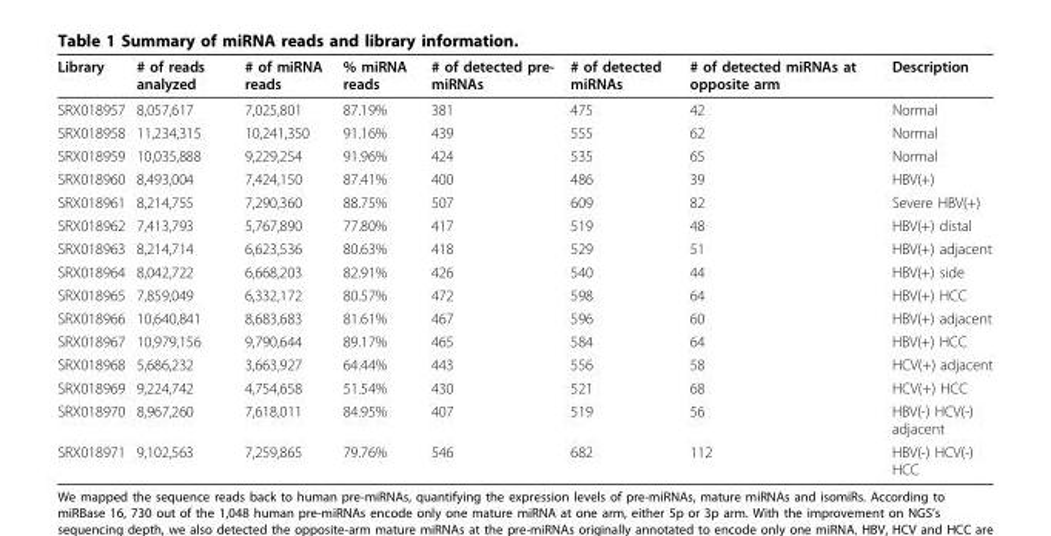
<table><thead><tr><td>Library</td><td># of reads analyzed</td><td># of miRNA reads</td><td>% miRNA reads</td><td># of detected pre- miRNAs</td><td># of detected miRNAs</td><td># of detected miRNAs at opposite arm</td><td>Description</td></tr></thead><tbody><tr><td>SRX018957</td><td>8,057,617</td><td>7,025,801</td><td>87.19%</td><td>381</td><td>475</td><td>42</td><td>Normal</td></tr><tr><td>SRX018958</td><td>11,234,315</td><td>10,241,350</td><td>91.16%</td><td>439</td><td>555</td><td>62</td><td>Normal</td></tr><tr><td>SRX018959</td><td>10,035,888</td><td>9,229,254</td><td>91.96%</td><td>424</td><td>535</td><td>65</td><td>Normal</td></tr><tr><td>SRX018960</td><td>8,493,004</td><td>7,424,150</td><td>87.41%</td><td>400</td><td>486</td><td>39</td><td>HBV(+)</td></tr><tr><td>SRX018961</td><td>8,214,755</td><td>7,290,360</td><td>88.75%</td><td>507</td><td>609</td><td>82</td><td>Severe HBV(+)</td></tr><tr><td>SRX018962</td><td>7,413,793</td><td>5,767,890</td><td>77.80%</td><td>417</td><td>519</td><td>48</td><td>HBV(+) distal</td></tr><tr><td>SRX018963</td><td>8,214,714</td><td>6,623,536</td><td>80.63%</td><td>418</td><td>529</td><td>51</td><td>HBV(+) adjacent</td></tr><tr><td>SRX018964</td><td>8,042,722</td><td>6,668,203</td><td>82.91%</td><td>426</td><td>540</td><td>44</td><td>HBV(+) side</td></tr><tr><td>SRX018965</td><td>7,859,049</td><td>6,332,172</td><td>80.57%</td><td>472</td><td>598</td><td>64</td><td>HBV(+) HCC</td></tr><tr><td>SRX018966</td><td>10,640,841</td><td>8,683,683</td><td>81.61%</td><td>467</td><td>596</td><td>60</td><td>HBV(+) adjacent</td></tr><tr><td>SRX018967</td><td>10,979,156</td><td>9,790,644</td><td>89.17%</td><td>465</td><td>584</td><td>64</td><td>HBV(+) HCC</td></tr><tr><td>SRX018968</td><td>5,686,232</td><td>3,663,927</td><td>64.44%</td><td>443</td><td>556</td><td>58</td><td>HCV(+) adjacent</td></tr><tr><td>SRX018969</td><td>9,224,742</td><td>4,754,658</td><td>51.54%</td><td>430</td><td>521</td><td>68</td><td>HCV(+) HCC</td></tr><tr><td>SRX018970</td><td>8,967,260</td><td>7,618,011</td><td>84.95%</td><td>407</td><td>519</td><td>56</td><td>HBV(-) HCV(-) adjacent</td></tr><tr><td>SRX018971</td><td>9,102,563</td><td>7,259,865</td><td>79.76%</td><td>546</td><td>682</td><td>112</td><td>HBV(-) HCV(-) HCC</td></tr></tbody></table>